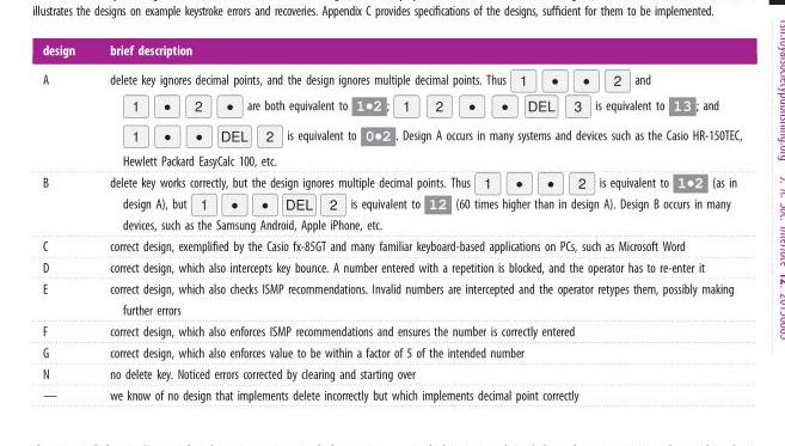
<table><thead><tr><td>design</td><td>brief description</td></tr></thead><tbody><tr><td>A</td><td>delete key ignores decimal points, and the design ignores multiple decimal points. Thus and are both equivalent to ; is equivalent to ; and is equivalent to . Design A occurs in many systems and devices such as the Casio HR-150TEC, Hewlett Packard EasyCalc 100, etc.</td></tr><tr><td>B</td><td>delete key works correctly, but the design ignores multiple decimal points. Thus is equivalent to (as in design A), but is equivalent to (60 times higher than in design A). Design B occurs in many devices, such as the Samsung Android, Apple iPhone, etc.</td></tr><tr><td>C</td><td>correct design, exemplified by the Casio fx-85GT and many familiar keyboard-based applications on PCs, such as Microsoft Word</td></tr><tr><td>D</td><td>correct design, which also intercepts key bounce. A number entered with a repetition is blocked, and the operator has to re-enter it</td></tr><tr><td>E</td><td>correct design, which also checks ISMP recommendations. Invalid numbers are intercepted and the operator retypes them, possibly making further errors</td></tr><tr><td>F</td><td>correct design, which also enforces ISMP recommendations and ensures the number is correctly entered</td></tr><tr><td>G</td><td>correct design, which also enforces value to be within a factor of 5 of the intended number</td></tr><tr><td>N</td><td>no delete key. Noticed errors corrected by clearing and starting over</td></tr><tr><td>—</td><td>we know of no design that implements delete incorrectly but which implements decimal point correctly</td></tr></tbody></table>